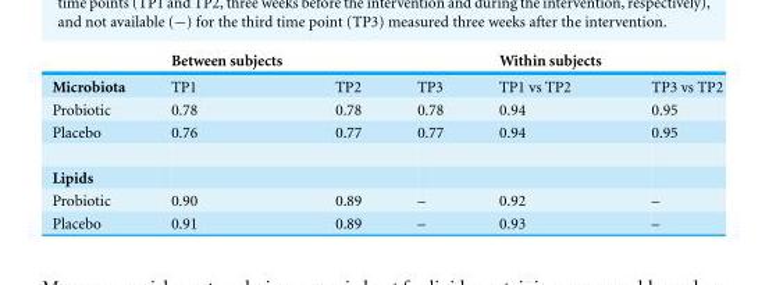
<table><thead><tr><td></td><td>Between subjects</td><td></td><td></td><td>Within subjects</td><td></td></tr></thead><tbody><tr><td>Microbiota</td><td>TP1</td><td>TP2</td><td>TP3</td><td>TP1 vs TP2</td><td>TP3 vs TP2</td></tr><tr><td>Probiotic</td><td>0.78</td><td>0.78</td><td>0.78</td><td>0.94</td><td>0.95</td></tr><tr><td>Placebo</td><td>0.76</td><td>0.77</td><td>0.77</td><td>0.94</td><td>0.95</td></tr><tr><td colspan="6">Lipids</td></tr><tr><td>Probiotic</td><td>0.90</td><td>0.89</td><td>–</td><td>0.92</td><td>–</td></tr><tr><td>Placebo</td><td>0.91</td><td>0.89</td><td>–</td><td>0.93</td><td>–</td></tr></tbody></table>